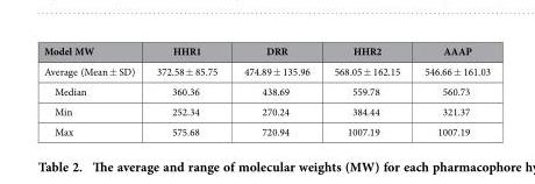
<table><thead><tr><td>Model MW</td><td>HHR1</td><td>DRR</td><td>HHR2</td><td>AAAP</td></tr></thead><tbody><tr><td>Average (Mean ± SD)</td><td>372.58 ± 85.75</td><td>474.89 ± 135.96</td><td>568.05 ± 162.15</td><td>546.66 ± 161.03</td></tr><tr><td>Median</td><td>360.36</td><td>438.69</td><td>559.78</td><td>560.73</td></tr><tr><td>Min</td><td>252.34</td><td>270.24</td><td>384.44</td><td>321.37</td></tr><tr><td>Max</td><td>575.68</td><td>720.94</td><td>1007.19</td><td>1007.19</td></tr></tbody></table>